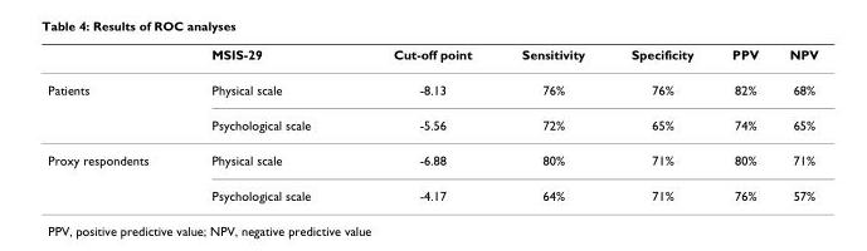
<table><thead><tr><td></td><td>MSIS-29</td><td>Cut-off point</td><td>Sensitivity</td><td>Specificity</td><td>PPV</td><td>NPV</td></tr></thead><tbody><tr><td rowspan="2">Patients</td><td>Physical scale</td><td>-8.13</td><td>76%</td><td>76%</td><td>82%</td><td>68%</td></tr><tr><td>Psychological scale</td><td>-5.56</td><td>72%</td><td>65%</td><td>74%</td><td>65%</td></tr><tr><td rowspan="2">Proxy respondents</td><td>Physical scale</td><td>-6.88</td><td>80%</td><td>71%</td><td>80%</td><td>71%</td></tr><tr><td>Psychological scale</td><td>-4.17</td><td>64%</td><td>71%</td><td>76%</td><td>57%</td></tr></tbody></table>